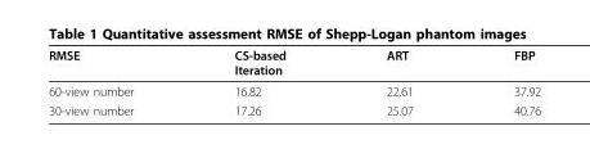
<table><thead><tr><td>RMSE</td><td>CS-based Iteration</td><td>ART</td><td>FBP</td></tr></thead><tbody><tr><td>60-view number</td><td>16.82</td><td>22.61</td><td>37.92</td></tr><tr><td>30-view number</td><td>17.26</td><td>25.07</td><td>40.76</td></tr></tbody></table>